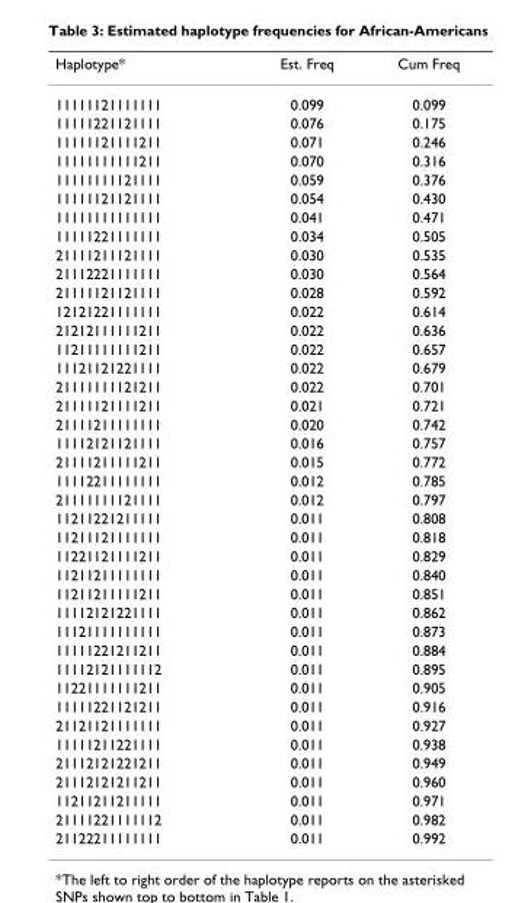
<table><thead><tr><td>Haplotype*</td><td>Est. Freq</td><td>Cum Freq</td></tr></thead><tbody><tr><td>11111121111111</td><td>0.099</td><td>0.099</td></tr><tr><td>11111221121111</td><td>0.076</td><td>0.175</td></tr><tr><td>11111121111211</td><td>0.071</td><td>0.246</td></tr><tr><td>11111111111211</td><td>0.070</td><td>0.316</td></tr><tr><td>11111111121111</td><td>0.059</td><td>0.376</td></tr><tr><td>11111121121111</td><td>0.054</td><td>0.430</td></tr><tr><td>11111111111111</td><td>0.041</td><td>0.471</td></tr><tr><td>11111221111111</td><td>0.034</td><td>0.505</td></tr><tr><td>21111211121111</td><td>0.030</td><td>0.535</td></tr><tr><td>21112221111111</td><td>0.030</td><td>0.564</td></tr><tr><td>21111121121111</td><td>0.028</td><td>0.592</td></tr><tr><td>12121221111111</td><td>0.022</td><td>0.614</td></tr><tr><td>21212111111211</td><td>0.022</td><td>0.636</td></tr><tr><td>11211111111211</td><td>0.022</td><td>0.657</td></tr><tr><td>11121121221111</td><td>0.022</td><td>0.679</td></tr><tr><td>21111111121211</td><td>0.022</td><td>0.701</td></tr><tr><td>21111121111211</td><td>0.021</td><td>0.721</td></tr><tr><td>21111211111111</td><td>0.020</td><td>0.742</td></tr><tr><td>11112121121111</td><td>0.016</td><td>0.757</td></tr><tr><td>21111211111211</td><td>0.015</td><td>0.772</td></tr><tr><td>11112211111111</td><td>0.012</td><td>0.785</td></tr><tr><td>21111111121111</td><td>0.012</td><td>0.797</td></tr><tr><td>11211221211111</td><td>0.011</td><td>0.808</td></tr><tr><td>11211121111111</td><td>0.011</td><td>0.818</td></tr><tr><td>11221121111211</td><td>0.011</td><td>0.829</td></tr><tr><td>11211211111111</td><td>0.011</td><td>0.840</td></tr><tr><td>11211211111211</td><td>0.011</td><td>0.851</td></tr><tr><td>11112121221111</td><td>0.011</td><td>0.862</td></tr><tr><td>11121111111111</td><td>0.011</td><td>0.873</td></tr><tr><td>11111221211211</td><td>0.011</td><td>0.884</td></tr><tr><td>11112121111112</td><td>0.011</td><td>0.895</td></tr><tr><td>11221111111211</td><td>0.011</td><td>0.905</td></tr><tr><td>11111221121211</td><td>0.011</td><td>0.916</td></tr><tr><td>21121121111111</td><td>0.011</td><td>0.927</td></tr><tr><td>11111211221111</td><td>0.011</td><td>0.938</td></tr><tr><td>21112121221211</td><td>0.011</td><td>0.949</td></tr><tr><td>21112121211211</td><td>0.011</td><td>0.960</td></tr><tr><td>11211211211111</td><td>0.011</td><td>0.971</td></tr><tr><td>21111221111112</td><td>0.011</td><td>0.982</td></tr><tr><td>21122211111111</td><td>0.011</td><td>0.992</td></tr></tbody></table>